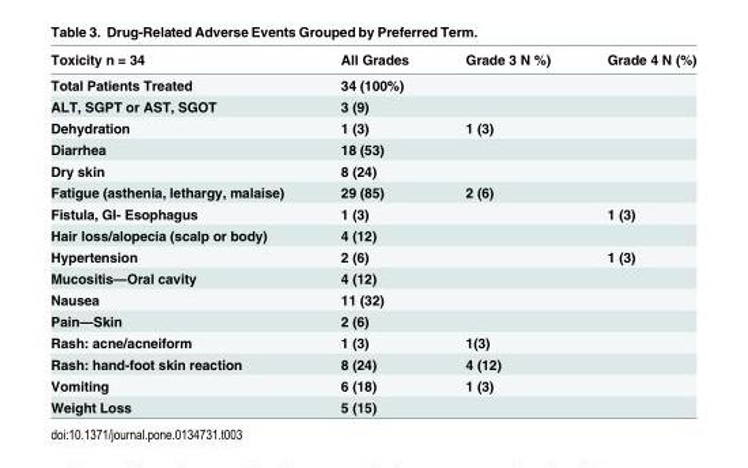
<table><thead><tr><td>Toxicity n = 34</td><td>All Grades</td><td>Grade 3 N %)</td><td>Grade 4 N (%)</td></tr></thead><tbody><tr><td>Total Patients Treated</td><td>34 (100%)</td><td></td><td></td></tr><tr><td>ALT, SGPT or AST, SGOT</td><td>3 (9)</td><td></td><td></td></tr><tr><td>Dehydration</td><td>1 (3)</td><td>1 (3)</td><td></td></tr><tr><td>Diarrhea</td><td>18 (53)</td><td></td><td></td></tr><tr><td>Dry skin</td><td>8 (24)</td><td></td><td></td></tr><tr><td>Fatigue (asthenia, lethargy, malaise)</td><td>29 (85)</td><td>2 (6)</td><td></td></tr><tr><td>Fistula, GI- Esophagus</td><td>1 (3)</td><td></td><td>1 (3)</td></tr><tr><td>Hair loss/alopecia (scalp or body)</td><td>4 (12)</td><td></td><td></td></tr><tr><td>Hypertension</td><td>2 (6)</td><td></td><td>1 (3)</td></tr><tr><td>Mucositis—Oral cavity</td><td>4 (12)</td><td></td><td></td></tr><tr><td>Nausea</td><td>11 (32)</td><td></td><td></td></tr><tr><td>Pain—Skin</td><td>2 (6)</td><td></td><td></td></tr><tr><td>Rash: acne/acneiform</td><td>1 (3)</td><td>1(3)</td><td></td></tr><tr><td>Rash: hand-foot skin reaction</td><td>8 (24)</td><td>4 (12)</td><td></td></tr><tr><td>Vomiting</td><td>6 (18)</td><td>1 (3)</td><td></td></tr><tr><td>Weight Loss</td><td>5 (15)</td><td></td><td></td></tr></tbody></table>